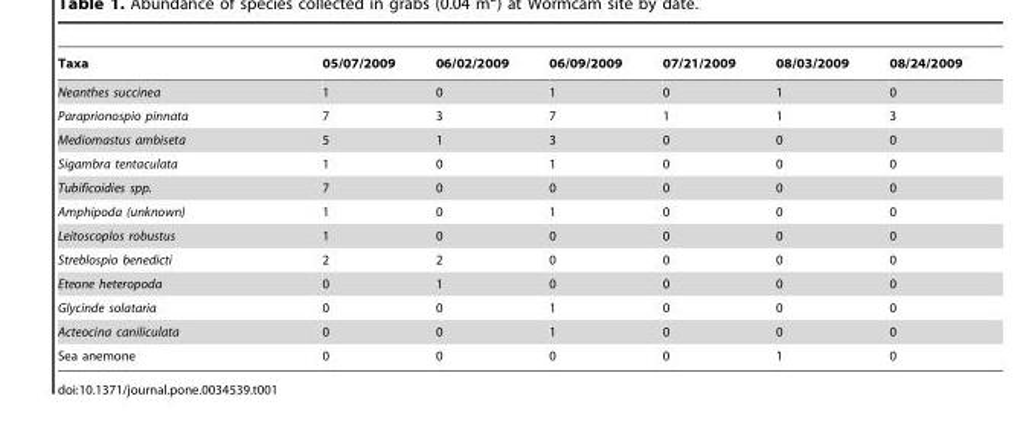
<table><thead><tr><td>Taxa</td><td>05/07/2009</td><td>06/02/2009</td><td>06/09/2009</td><td>07/21/2009</td><td>08/03/2009</td><td>08/24/2009</td></tr></thead><tbody><tr><td>Neanthes succinea</td><td>1</td><td>0</td><td>1</td><td>0</td><td>1</td><td>0</td></tr><tr><td>Paraprionospio pinnata</td><td>7</td><td>3</td><td>7</td><td>1</td><td>1</td><td>3</td></tr><tr><td>Mediomastus ambiseta</td><td>5</td><td>1</td><td>3</td><td>0</td><td>0</td><td>0</td></tr><tr><td>Sigambra tentaculata</td><td>1</td><td>0</td><td>1</td><td>0</td><td>0</td><td>0</td></tr><tr><td>Tubificoidies spp.</td><td>7</td><td>0</td><td>0</td><td>0</td><td>0</td><td>0</td></tr><tr><td>Amphipoda (unknown)</td><td>1</td><td>0</td><td>1</td><td>0</td><td>0</td><td>0</td></tr><tr><td>Leitoscoplos robustus</td><td>1</td><td>0</td><td>0</td><td>0</td><td>0</td><td>0</td></tr><tr><td>Streblospio benedicti</td><td>2</td><td>2</td><td>0</td><td>0</td><td>0</td><td>0</td></tr><tr><td>Eteone heteropoda</td><td>0</td><td>1</td><td>0</td><td>0</td><td>0</td><td>0</td></tr><tr><td>Glycinde solataria</td><td>0</td><td>0</td><td>1</td><td>0</td><td>0</td><td>0</td></tr><tr><td>Acteocina caniliculata</td><td>0</td><td>0</td><td>1</td><td>0</td><td>0</td><td>0</td></tr><tr><td>Sea anemone</td><td>0</td><td>0</td><td>0</td><td>0</td><td>1</td><td>0</td></tr></tbody></table>